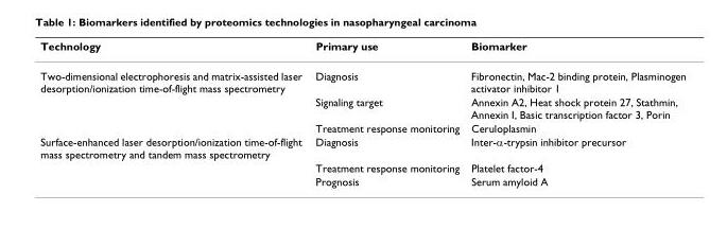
<table><thead><tr><td>Technology</td><td>Primary use</td><td>Biomarker</td></tr></thead><tbody><tr><td rowspan="3">Two-dimensional electrophoresis and matrix-assisted laser desorption/ionization time-of-flight mass spectrometry</td><td>Diagnosis</td><td>Fibronectin, Mac-2 binding protein, Plasminogen activator inhibitor 1</td></tr><tr><td>Signaling target</td><td>Annexin A2, Heat shock protein 27, Stathmin, Annexin I, Basic transcription factor 3, Porin</td></tr><tr><td>Treatment response monitoring</td><td>Ceruloplasmin</td></tr><tr><td rowspan="3">Surface-enhanced laser desorption/ionization time-of-flight mass spectrometry and tandem mass spectrometry</td><td>Diagnosis</td><td>Inter-α-trypsin inhibitor precursor</td></tr><tr><td>Treatment response monitoring</td><td>Platelet factor-4</td></tr><tr><td>Prognosis</td><td>Serum amyloid A</td></tr></tbody></table>